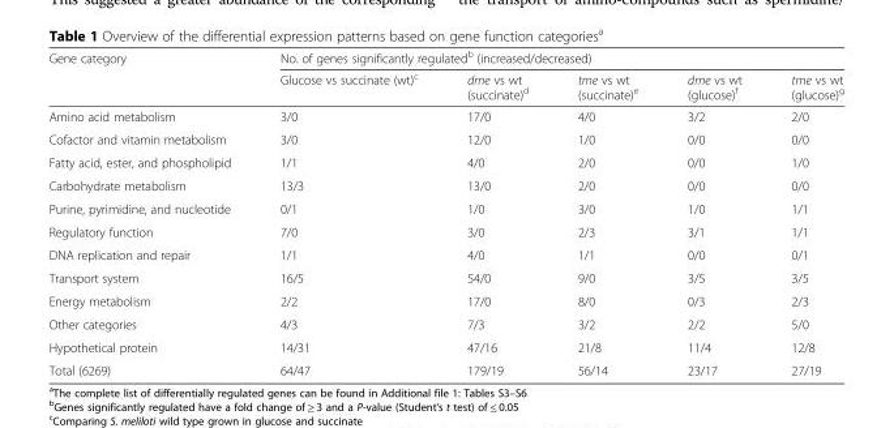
<table><thead><tr><td rowspan="2">Gene category</td><td colspan="5">No. of genes significantly regulated<sup>b</sup> (increased/decreased)</td></tr><tr><td>Glucose vs succinate (wt)<sup>c</sup></td><td>dme vs wt (succinate)<sup>d</sup></td><td>tme vs wt (succinate)<sup>e</sup></td><td>dme vs wt (glucose)<sup>f</sup></td><td>tme vs wt (glucose)<sup>g</sup></td></tr></thead><tbody><tr><td>Amino acid metabolism</td><td>3/0</td><td>17/0</td><td>4/0</td><td>3/2</td><td>2/0</td></tr><tr><td>Cofactor and vitamin metabolism</td><td>3/0</td><td>12/0</td><td>1/0</td><td>0/0</td><td>0/0</td></tr><tr><td>Fatty acid, ester, and phospholipid</td><td>1/1</td><td>4/0</td><td>2/0</td><td>0/0</td><td>1/0</td></tr><tr><td>Carbohydrate metabolism</td><td>13/3</td><td>13/0</td><td>2/0</td><td>0/0</td><td>0/0</td></tr><tr><td>Purine, pyrimidine, and nucleotide</td><td>0/1</td><td>1/0</td><td>3/0</td><td>1/0</td><td>1/1</td></tr><tr><td>Regulatory function</td><td>7/0</td><td>3/0</td><td>2/3</td><td>3/1</td><td>1/1</td></tr><tr><td>DNA replication and repair</td><td>1/1</td><td>4/0</td><td>1/1</td><td>0/0</td><td>0/1</td></tr><tr><td>Transport system</td><td>16/5</td><td>54/0</td><td>9/0</td><td>3/5</td><td>3/5</td></tr><tr><td>Energy metabolism</td><td>2/2</td><td>17/0</td><td>8/0</td><td>0/3</td><td>2/3</td></tr><tr><td>Other categories</td><td>4/3</td><td>7/3</td><td>3/2</td><td>2/2</td><td>5/0</td></tr><tr><td>Hypothetical protein</td><td>14/31</td><td>47/16</td><td>21/8</td><td>11/4</td><td>12/8</td></tr><tr><td>Total (6269)</td><td>64/47</td><td>179/19</td><td>56/14</td><td>23/17</td><td>27/19</td></tr></tbody></table>